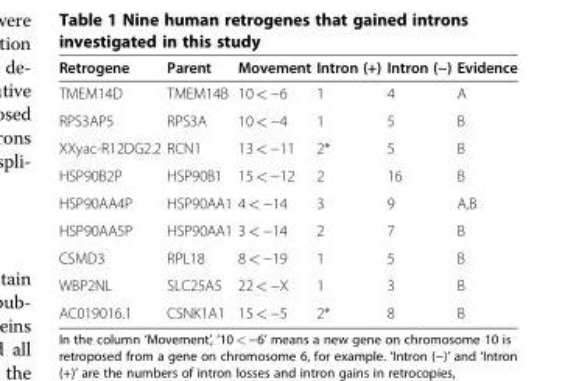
<table><thead><tr><td>Retrogene</td><td>Parent</td><td>Movement</td><td>Intron (+)</td><td>Intron (−)</td><td>Evidence</td></tr></thead><tbody><tr><td>TMEM14D</td><td>TMEM14B</td><td>10 &lt; −6</td><td>1</td><td>4</td><td>A</td></tr><tr><td>RPS3AP5</td><td>RPS3A</td><td>10 &lt; −4</td><td>1</td><td>5</td><td>B</td></tr><tr><td>XXyac-R12DG2.2</td><td>RCN1</td><td>13 &lt; −11</td><td>2*</td><td>5</td><td>B</td></tr><tr><td>HSP90B2P</td><td>HSP90B1</td><td>15 &lt; −12</td><td>2</td><td>16</td><td>B</td></tr><tr><td>HSP90AA4P</td><td>HSP90AA1</td><td>4 &lt; −14</td><td>3</td><td>9</td><td>A,B</td></tr><tr><td>HSP90AA5P</td><td>HSP90AA1</td><td>3 &lt; −14</td><td>2</td><td>7</td><td>B</td></tr><tr><td>CSMD3</td><td>RPL18</td><td>8 &lt; −19</td><td>1</td><td>5</td><td>B</td></tr><tr><td>WBP2NL</td><td>SLC25A5</td><td>22 &lt; −X</td><td>1</td><td>3</td><td>B</td></tr><tr><td>AC019016.1</td><td>CSNK1A1</td><td>15 &lt; −5</td><td>2*</td><td>8</td><td>B</td></tr></tbody></table>